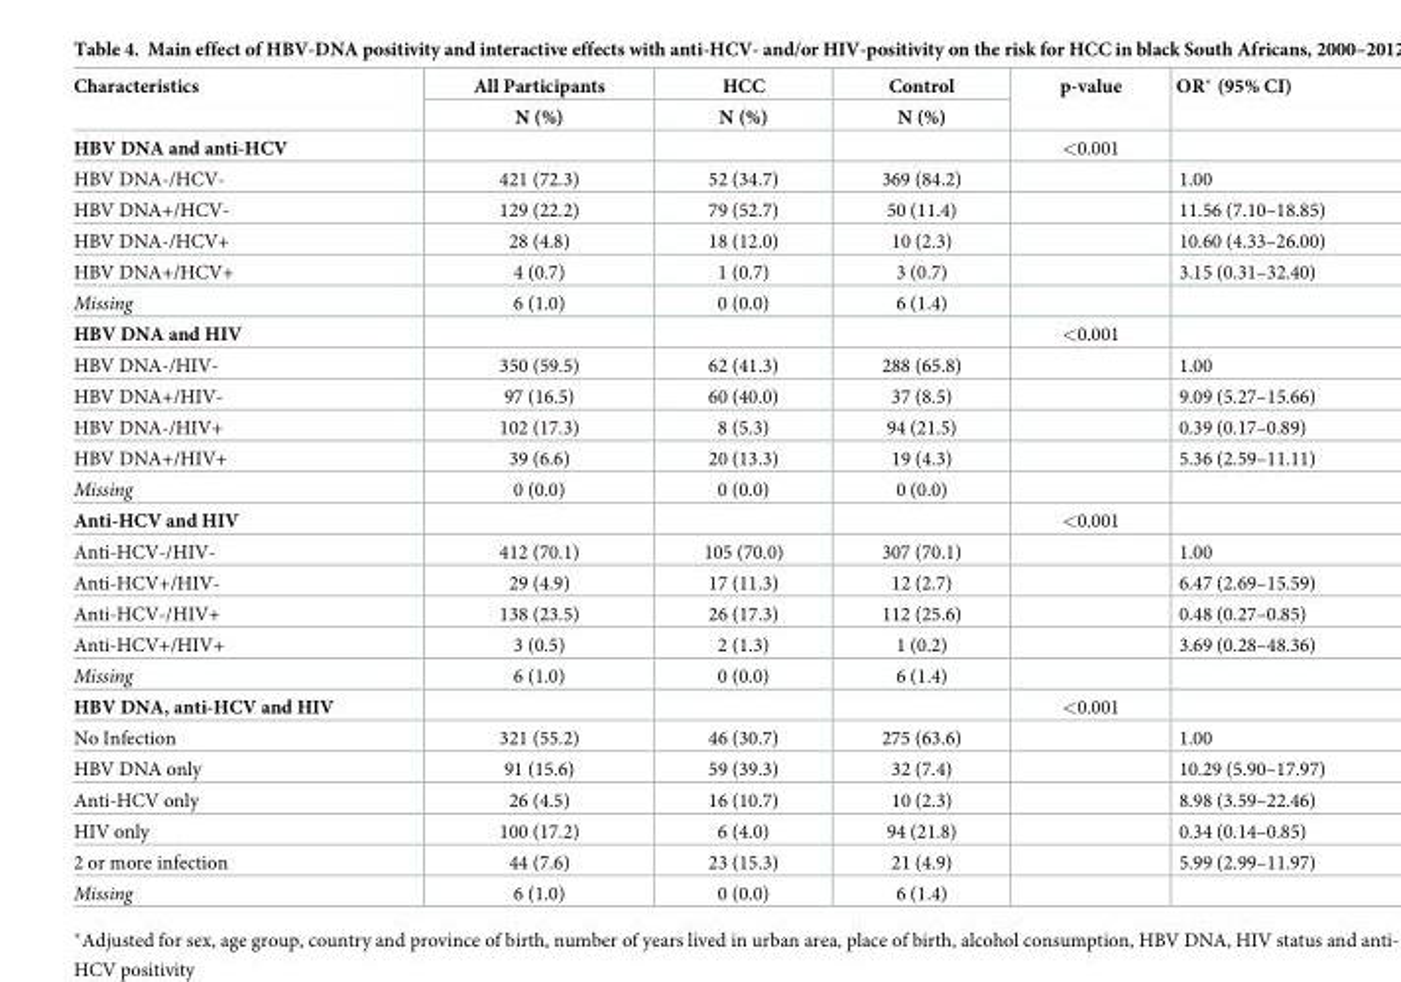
<table><thead><tr><td rowspan="2">Characteristics</td><td rowspan="2">All Participants N (%)</td><td rowspan="2">HCC N (%)</td><td rowspan="2">Control N (%)</td><td rowspan="2">p-value</td><td rowspan="2">OR* (95% CI)</td></tr><tr></tr></thead><tbody><tr><td>HBV DNA and anti-HCV</td><td></td><td></td><td></td><td>&lt;0.001</td><td></td></tr><tr><td>HBV DNA-/HCV-</td><td>421 (72.3)</td><td>52 (34.7)</td><td>369 (84.2)</td><td></td><td>1.00</td></tr><tr><td>HBV DNA+/HCV-</td><td>129 (22.2)</td><td>79 (52.7)</td><td>50 (11.4)</td><td></td><td>11.56 (7.10–18.85)</td></tr><tr><td>HBV DNA-/HCV+</td><td>28 (4.8)</td><td>18 (12.0)</td><td>10 (2.3)</td><td></td><td>10.60 (4.33–26.00)</td></tr><tr><td>HBV DNA+/HCV+</td><td>4 (0.7)</td><td>1 (0.7)</td><td>3 (0.7)</td><td></td><td>3.15 (0.31–32.40)</td></tr><tr><td>Missing</td><td>6 (1.0)</td><td>0 (0.0)</td><td>6 (1.4)</td><td></td><td></td></tr><tr><td>HBV DNA and HIV</td><td></td><td></td><td></td><td>&lt;0.001</td><td></td></tr><tr><td>HBV DNA-/HIV-</td><td>350 (59.5)</td><td>62 (41.3)</td><td>288 (65.8)</td><td></td><td>1.00</td></tr><tr><td>HBV DNA+/HIV-</td><td>97 (16.5)</td><td>60 (40.0)</td><td>37 (8.5)</td><td></td><td>9.09 (5.27–15.66)</td></tr><tr><td>HBV DNA-/HIV+</td><td>102 (17.3)</td><td>8 (5.3)</td><td>94 (21.5)</td><td></td><td>0.39 (0.17–0.89)</td></tr><tr><td>HBV DNA+/HIV+</td><td>39 (6.6)</td><td>20 (13.3)</td><td>19 (4.3)</td><td></td><td>5.36 (2.59–11.11)</td></tr><tr><td>Missing</td><td>0 (0.0)</td><td>0 (0.0)</td><td>0 (0.0)</td><td></td><td></td></tr><tr><td>Anti-HCV and HIV</td><td></td><td></td><td></td><td>&lt;0.001</td><td></td></tr><tr><td>Anti-HCV-/HIV-</td><td>412 (70.1)</td><td>105 (70.0)</td><td>307 (70.1)</td><td></td><td>1.00</td></tr><tr><td>Anti-HCV+/HIV-</td><td>29 (4.9)</td><td>17 (11.3)</td><td>12 (2.7)</td><td></td><td>6.47 (2.69–15.59)</td></tr><tr><td>Anti-HCV-/HIV+</td><td>138 (23.5)</td><td>26 (17.3)</td><td>112 (25.6)</td><td></td><td>0.48 (0.27–0.85)</td></tr><tr><td>Anti-HCV+/HIV+</td><td>3 (0.5)</td><td>2 (1.3)</td><td>1 (0.2)</td><td></td><td>3.69 (0.28–48.36)</td></tr><tr><td>Missing</td><td>6 (1.0)</td><td>0 (0.0)</td><td>6 (1.4)</td><td></td><td></td></tr><tr><td>HBV DNA, anti-HCV and HIV</td><td></td><td></td><td></td><td>&lt;0.001</td><td></td></tr><tr><td>No Infection</td><td>321 (55.2)</td><td>46 (30.7)</td><td>275 (63.6)</td><td></td><td>1.00</td></tr><tr><td>HBV DNA only</td><td>91 (15.6)</td><td>59 (39.3)</td><td>32 (7.4)</td><td></td><td>10.29 (5.90–17.97)</td></tr><tr><td>Anti-HCV only</td><td>26 (4.5)</td><td>16 (10.7)</td><td>10 (2.3)</td><td></td><td>8.98 (3.59–22.46)</td></tr><tr><td>HIV only</td><td>100 (17.2)</td><td>6 (4.0)</td><td>94 (21.8)</td><td></td><td>0.34 (0.14–0.85)</td></tr><tr><td>2 or more infection</td><td>44 (7.6)</td><td>23 (15.3)</td><td>21 (4.9)</td><td></td><td>5.99 (2.99–11.97)</td></tr><tr><td>Missing</td><td>6 (1.0)</td><td>0 (0.0)</td><td>6 (1.4)</td><td></td><td></td></tr></tbody></table>